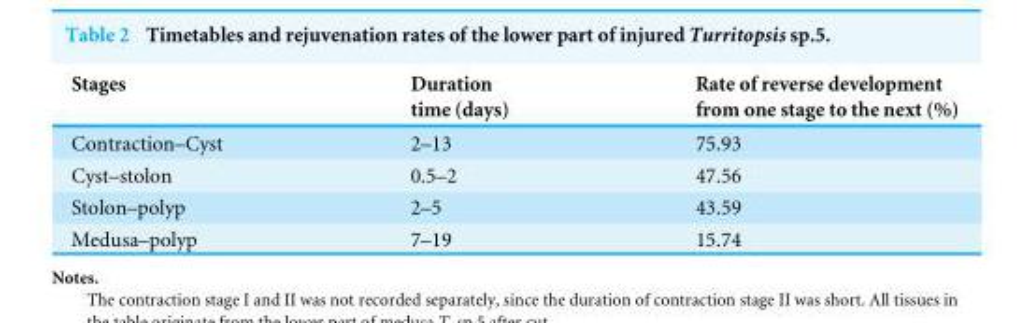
<table><thead><tr><td>Stages</td><td>Duration time (days)</td><td>Rate of reverse development from one stage to the next (%)</td></tr></thead><tbody><tr><td>Contraction–Cyst</td><td>2–13</td><td>75.93</td></tr><tr><td>Cyst–stolon</td><td>0.5–2</td><td>47.56</td></tr><tr><td>Stolon–polyp</td><td>2–5</td><td>43.59</td></tr><tr><td>Medusa–polyp</td><td>7–19</td><td>15.74</td></tr></tbody></table>